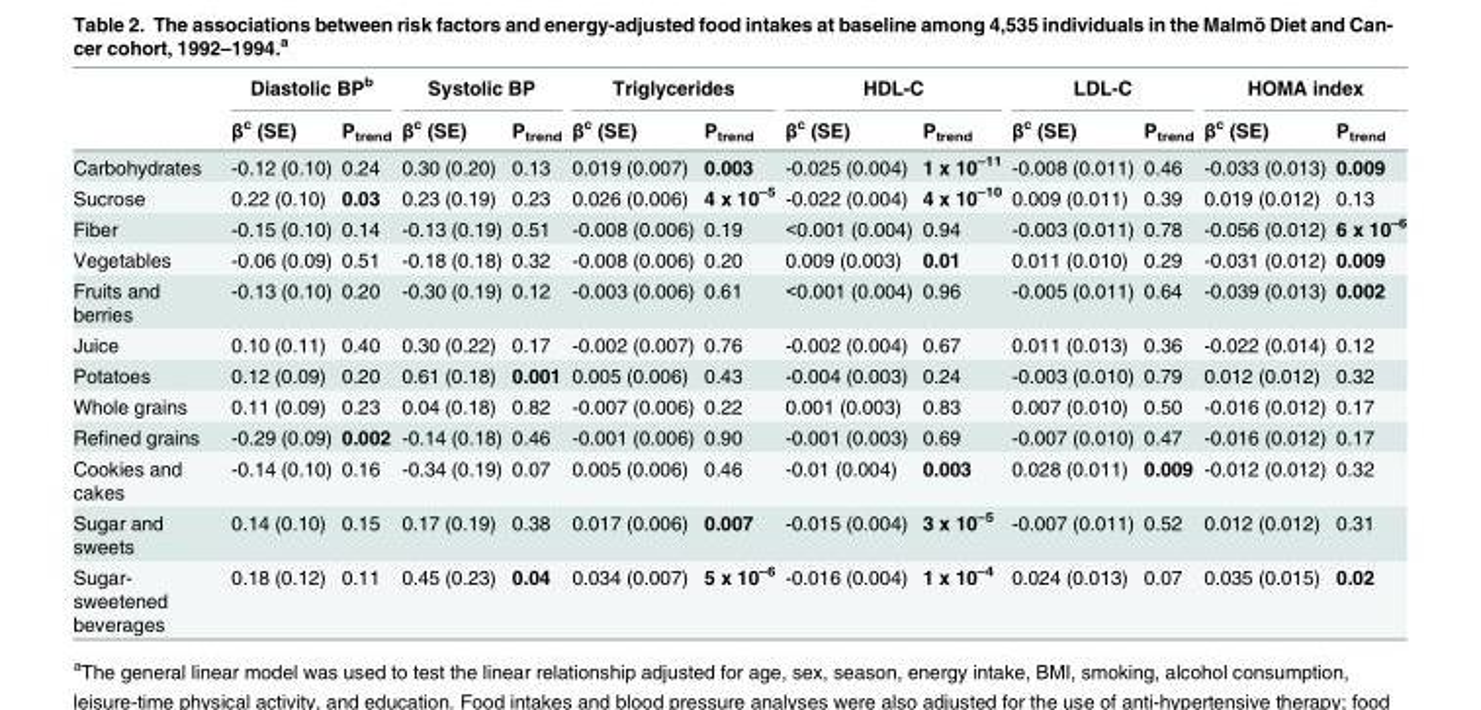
<table><thead><tr><td rowspan="2"></td><td colspan="2">Diastolic BP<sup>b</sup></td><td colspan="2">Systolic BP</td><td colspan="2">Triglycerides</td><td colspan="2">HDL-C</td><td colspan="2">LDL-C</td><td colspan="2">HOMA index</td></tr><tr><td>β<sup>c</sup> (SE)</td><td>P<sub>trend</sub></td><td>β<sup>c</sup> (SE)</td><td>P<sub>trend</sub></td><td>β<sup>c</sup> (SE)</td><td>P<sub>trend</sub></td><td>β<sup>c</sup> (SE)</td><td>P<sub>trend</sub></td><td>β<sup>c</sup> (SE)</td><td>P<sub>trend</sub></td><td>β<sup>c</sup> (SE)</td><td>P<sub>trend</sub></td></tr></thead><tbody><tr><td>Carbohydrates</td><td>-0.12 (0.10)</td><td>0.24</td><td>0.30 (0.20)</td><td>0.13</td><td>0.019 (0.007)</td><td>0.003</td><td>-0.025 (0.004)</td><td>1 x 10<sup>–11</sup></td><td>-0.008 (0.011)</td><td>0.46</td><td>-0.033 (0.013)</td><td>0.009</td></tr><tr><td>Sucrose</td><td>0.22 (0.10)</td><td>0.03</td><td>0.23 (0.19)</td><td>0.23</td><td>0.026 (0.006)</td><td>4 x 10<sup>–5</sup></td><td>-0.022 (0.004)</td><td>4 x 10<sup>–10</sup></td><td>0.009 (0.011)</td><td>0.39</td><td>0.019 (0.012)</td><td>0.13</td></tr><tr><td>Fiber</td><td>-0.15 (0.10)</td><td>0.14</td><td>-0.13 (0.19)</td><td>0.51</td><td>-0.008 (0.006)</td><td>0.19</td><td>&lt;0.001 (0.004)</td><td>0.94</td><td>-0.003 (0.011)</td><td>0.78</td><td>-0.056 (0.012)</td><td>6 x 10<sup>–6</sup></td></tr><tr><td>Vegetables</td><td>-0.06 (0.09)</td><td>0.51</td><td>-0.18 (0.18)</td><td>0.32</td><td>-0.008 (0.006)</td><td>0.20</td><td>0.009 (0.003)</td><td>0.01</td><td>0.011 (0.010)</td><td>0.29</td><td>-0.031 (0.012)</td><td>0.009</td></tr><tr><td>Fruits and berries</td><td>-0.13 (0.10)</td><td>0.20</td><td>-0.30 (0.19)</td><td>0.12</td><td>-0.003 (0.006)</td><td>0.61</td><td>&lt;0.001 (0.004)</td><td>0.96</td><td>-0.005 (0.011)</td><td>0.64</td><td>-0.039 (0.013)</td><td>0.002</td></tr><tr><td>Juice</td><td>0.10 (0.11)</td><td>0.40</td><td>0.30 (0.22)</td><td>0.17</td><td>-0.002 (0.007)</td><td>0.76</td><td>-0.002 (0.004)</td><td>0.67</td><td>0.011 (0.013)</td><td>0.36</td><td>-0.022 (0.014)</td><td>0.12</td></tr><tr><td>Potatoes</td><td>0.12 (0.09)</td><td>0.20</td><td>0.61 (0.18)</td><td>0.001</td><td>0.005 (0.006)</td><td>0.43</td><td>-0.004 (0.003)</td><td>0.24</td><td>-0.003 (0.010)</td><td>0.79</td><td>0.012 (0.012)</td><td>0.32</td></tr><tr><td>Whole grains</td><td>0.11 (0.09)</td><td>0.23</td><td>0.04 (0.18)</td><td>0.82</td><td>-0.007 (0.006)</td><td>0.22</td><td>0.001 (0.003)</td><td>0.83</td><td>0.007 (0.010)</td><td>0.50</td><td>-0.016 (0.012)</td><td>0.17</td></tr><tr><td>Refined grains</td><td>-0.29 (0.09)</td><td>0.002</td><td>-0.14 (0.18)</td><td>0.46</td><td>-0.001 (0.006)</td><td>0.90</td><td>-0.001 (0.003)</td><td>0.69</td><td>-0.007 (0.010)</td><td>0.47</td><td>-0.016 (0.012)</td><td>0.17</td></tr><tr><td>Cookies and cakes</td><td>-0.14 (0.10)</td><td>0.16</td><td>-0.34 (0.19)</td><td>0.07</td><td>0.005 (0.006)</td><td>0.46</td><td>-0.01 (0.004)</td><td>0.003</td><td>0.028 (0.011)</td><td>0.009</td><td>-0.012 (0.012)</td><td>0.32</td></tr><tr><td>Sugar and sweets</td><td>0.14 (0.10)</td><td>0.15</td><td>0.17 (0.19)</td><td>0.38</td><td>0.017 (0.006)</td><td>0.007</td><td>-0.015 (0.004)</td><td>3 x 10<sup>–5</sup></td><td>-0.007 (0.011)</td><td>0.52</td><td>0.012 (0.012)</td><td>0.31</td></tr><tr><td>Sugar- sweetened beverages</td><td>0.18 (0.12)</td><td>0.11</td><td>0.45 (0.23)</td><td>0.04</td><td>0.034 (0.007)</td><td>5 x 10<sup>–6</sup></td><td>-0.016 (0.004)</td><td>1 x 10<sup>–4</sup></td><td>0.024 (0.013)</td><td>0.07</td><td>0.035 (0.015)</td><td>0.02</td></tr></tbody></table>